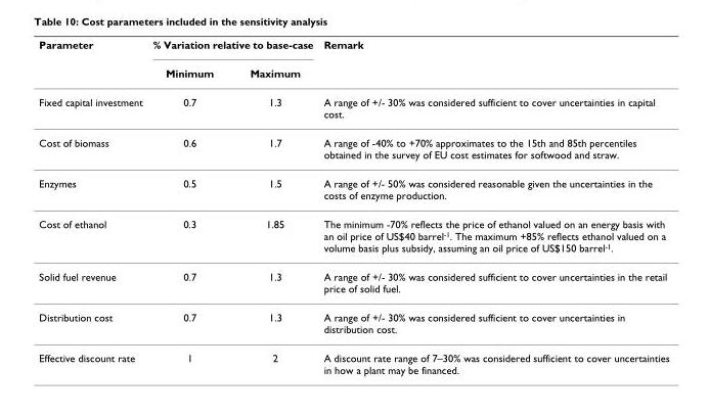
<table><thead><tr><td rowspan="2">Parameter</td><td colspan="2">% Variation relative to base-case</td><td rowspan="2">Remark</td></tr><tr><td>Minimum</td><td>Maximum</td></tr></thead><tbody><tr><td>Fixed capital investment</td><td>0.7</td><td>1.3</td><td>A range of +/- 30% was considered sufficient to cover uncertainties in capital cost.</td></tr><tr><td>Cost of biomass</td><td>0.6</td><td>1.7</td><td>A range of -40% to +70% approximates to the 15th and 85th percentiles obtained in the survey of EU cost estimates for softwood and straw.</td></tr><tr><td>Enzymes</td><td>0.5</td><td>1.5</td><td>A range of +/- 50% was considered reasonable given the uncertainties in the costs of enzyme production.</td></tr><tr><td>Cost of ethanol</td><td>0.3</td><td>1.85</td><td>The minimum -70% reflects the price of ethanol valued on an energy basis with an oil price of US$40 barrel<sup>-1</sup>. The maximum +85% reflects ethanol valued on a volume basis plus subsidy, assuming an oil price of US$150 barrel<sup>-1</sup>.</td></tr><tr><td>Solid fuel revenue</td><td>0.7</td><td>1.3</td><td>A range of +/- 30% was considered sufficient to cover uncertainties in the retail price of solid fuel.</td></tr><tr><td>Distribution cost</td><td>0.7</td><td>1.3</td><td>A range of +/- 30% was considered sufficient to cover uncertainties in distribution cost.</td></tr><tr><td>Effective discount rate</td><td>1</td><td>2</td><td>A discount rate range of 7–30% was considered sufficient to cover uncertainties in how a plant may be financed.</td></tr></tbody></table>